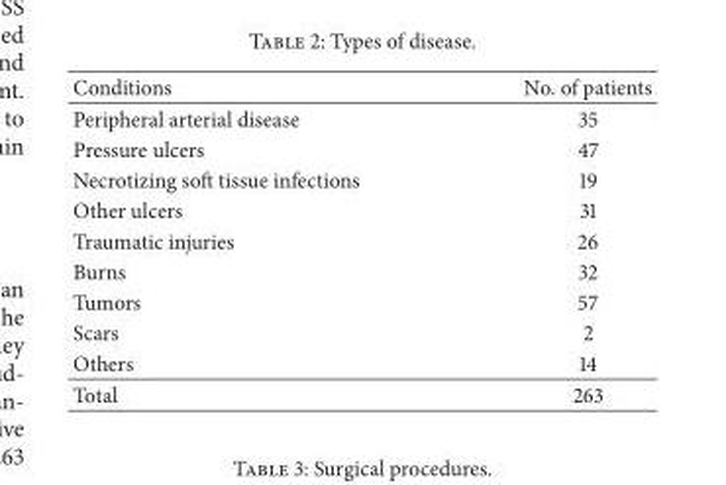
<table><thead><tr><td>Conditions</td><td>No. of patients</td></tr></thead><tbody><tr><td>Peripheral arterial disease</td><td>35</td></tr><tr><td>Pressure ulcers</td><td>47</td></tr><tr><td>Necrotizing soft tissue infections</td><td>19</td></tr><tr><td>Other ulcers</td><td>31</td></tr><tr><td>Traumatic injuries</td><td>26</td></tr><tr><td>Burns</td><td>32</td></tr><tr><td>Tumors</td><td>57</td></tr><tr><td>Scars</td><td>2</td></tr><tr><td>Others</td><td>14</td></tr><tr><td>Total</td><td>263</td></tr></tbody></table>